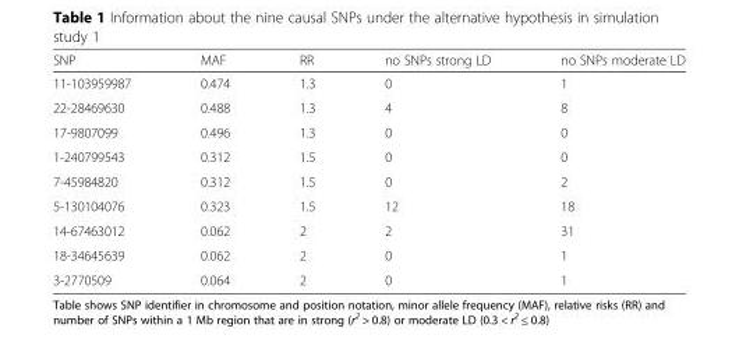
<table><thead><tr><td>SNP</td><td>MAF</td><td>RR</td><td>no SNPs strong LD</td><td>no SNPs moderate LD</td></tr></thead><tbody><tr><td>11-103959987</td><td>0.474</td><td>1.3</td><td>0</td><td>1</td></tr><tr><td>22-28469630</td><td>0.488</td><td>1.3</td><td>4</td><td>8</td></tr><tr><td>17-9807099</td><td>0.496</td><td>1.3</td><td>0</td><td>0</td></tr><tr><td>1-240799543</td><td>0.312</td><td>1.5</td><td>0</td><td>0</td></tr><tr><td>7-45984820</td><td>0.312</td><td>1.5</td><td>0</td><td>2</td></tr><tr><td>5-130104076</td><td>0.323</td><td>1.5</td><td>12</td><td>18</td></tr><tr><td>14-67463012</td><td>0.062</td><td>2</td><td>2</td><td>31</td></tr><tr><td>18-34645639</td><td>0.062</td><td>2</td><td>0</td><td>1</td></tr><tr><td>3-2770509</td><td>0.064</td><td>2</td><td>0</td><td>1</td></tr></tbody></table>